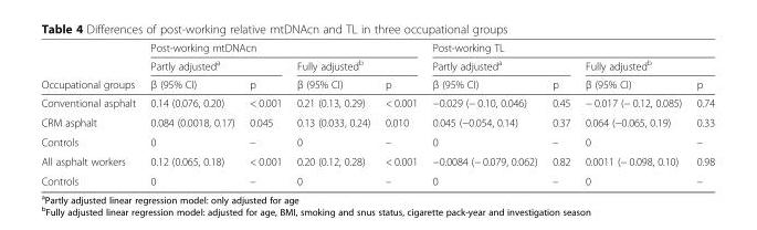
<table><thead><tr><td rowspan="3">Occupational groups</td><td colspan="4">Post-working mtDNAcn</td><td colspan="4">Post-working TL</td></tr><tr><td colspan="2">Partly adjusted<sup>a</sup></td><td colspan="2">Fully adjusted<sup>b</sup></td><td colspan="2">Partly adjusted<sup>a</sup></td><td colspan="2">Fully adjusted<sup>b</sup></td></tr><tr><td>β (95% CI)</td><td>p</td><td>β (95% CI)</td><td>p</td><td>β (95% CI)</td><td>p</td><td>β (95% CI)</td><td>p</td></tr></thead><tbody><tr><td>Conventional asphalt</td><td>0.14 (0.076, 0.20)</td><td>&lt; 0.001</td><td>0.21 (0.13, 0.29)</td><td>&lt; 0.001</td><td>−0.029 (− 0.10, 0.046)</td><td>0.45</td><td>− 0.017 (− 0.12, 0.085)</td><td>0.74</td></tr><tr><td>CRM asphalt</td><td>0.084 (0.0018, 0.17)</td><td>0.045</td><td>0.13 (0.033, 0.24)</td><td>0.010</td><td>0.045 (−0.054, 0.14)</td><td>0.37</td><td>0.064 (−0.065, 0.19)</td><td>0.33</td></tr><tr><td>Controls</td><td>0</td><td>–</td><td>0</td><td>–</td><td>0</td><td>–</td><td>0</td><td>–</td></tr><tr><td>All asphalt workers</td><td>0.12 (0.065, 0.18)</td><td>&lt; 0.001</td><td>0.20 (0.12, 0.28)</td><td>&lt; 0.001</td><td>−0.0084 (− 0.079, 0.062)</td><td>0.82</td><td>0.0011 (− 0.098, 0.10)</td><td>0.98</td></tr><tr><td>Controls</td><td>0</td><td>–</td><td>0</td><td>–</td><td>0</td><td>–</td><td>0</td><td>–</td></tr></tbody></table>